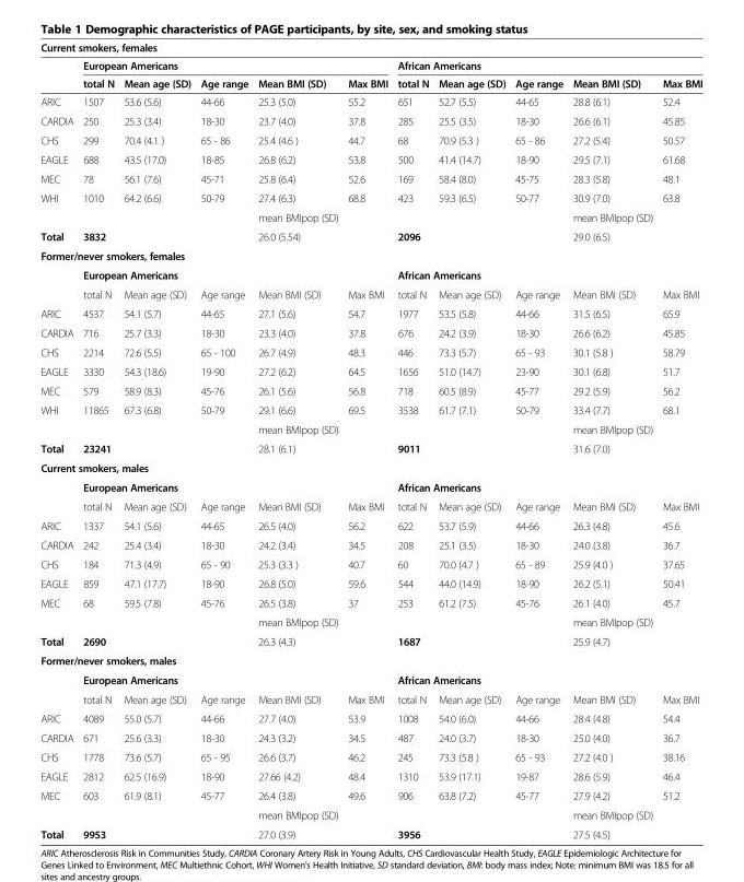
<table><thead><tr><td colspan="11">Current smokers, females</td></tr><tr><td rowspan="2"></td><td colspan="5">European Americans</td><td colspan="5">African Americans</td></tr><tr><td>total N</td><td>Mean age (SD)</td><td>Age range</td><td>Mean BMI (SD)</td><td>Max BMI</td><td>total N</td><td>Mean age (SD)</td><td>Age range</td><td>Mean BMI (SD)</td><td>Max BMI</td></tr></thead><tbody><tr><td>ARIC</td><td>1507</td><td>53.6 (5.6)</td><td>44-66</td><td>25.3 (5.0)</td><td>55.2</td><td>651</td><td>52.7 (5.5)</td><td>44-65</td><td>28.8 (6.1)</td><td>52.4</td></tr><tr><td>CARDIA</td><td>250</td><td>25.3 (3.4)</td><td>18-30</td><td>23.7 (4.0)</td><td>37.8</td><td>285</td><td>25.5 (3.5)</td><td>18-30</td><td>26.6 (6.1)</td><td>45.85</td></tr><tr><td>CHS</td><td>299</td><td>70.4 (4.1 )</td><td>65 - 86</td><td>25.4 (4.6 )</td><td>44.7</td><td>68</td><td>70.9 (5.3 )</td><td>65 - 86</td><td>27.2 (5.4)</td><td>50.57</td></tr><tr><td>EAGLE</td><td>688</td><td>43.5 (17.0)</td><td>18-85</td><td>26.8 (6.2)</td><td>53.8</td><td>500</td><td>41.4 (14.7)</td><td>18-90</td><td>29.5 (7.1)</td><td>61.68</td></tr><tr><td>MEC</td><td>78</td><td>56.1 (7.6)</td><td>45-71</td><td>25.8 (6.4)</td><td>52.6</td><td>169</td><td>58.4 (8.0)</td><td>45-75</td><td>28.3 (5.8)</td><td>48.1</td></tr><tr><td rowspan="2">WHI</td><td>1010</td><td>64.2 (6.6)</td><td>50-79</td><td>27.4 (6.3)</td><td>68.8</td><td>423</td><td>59.3 (6.5)</td><td>50-77</td><td>30.9 (7.0)</td><td>63.8</td></tr><tr><td></td><td></td><td></td><td>mean BMIpop (SD)</td><td></td><td></td><td></td><td></td><td>mean BMIpop (SD)</td><td></td></tr><tr><td>Total</td><td>3832</td><td></td><td></td><td>26.0 (5.54)</td><td></td><td>2096</td><td></td><td></td><td>29.0 (6.5)</td><td></td></tr><tr><td colspan="11">Former/never smokers, females</td></tr><tr><td></td><td colspan="5">European Americans</td><td colspan="5">African Americans</td></tr><tr><td></td><td>total N</td><td>Mean age (SD)</td><td>Age range</td><td>Mean BMI (SD)</td><td>Max BMI</td><td>total N</td><td>Mean age (SD)</td><td>Age range</td><td>Mean BMI (SD)</td><td>Max BMI</td></tr><tr><td>ARIC</td><td>4537</td><td>54.1 (5.7)</td><td>44-65</td><td>27.1 (5.6)</td><td>54.7</td><td>1977</td><td>53.5 (5.8)</td><td>44-66</td><td>31.5 (6.5)</td><td>65.9</td></tr><tr><td>CARDIA</td><td>716</td><td>25.7 (3.3)</td><td>18-30</td><td>23.3 (4.0)</td><td>37.8</td><td>676</td><td>24.2 (3.9)</td><td>18-30</td><td>26.6 (6.2)</td><td>45.85</td></tr><tr><td>CHS</td><td>2214</td><td>72.6 (5.5)</td><td>65 - 100</td><td>26.7 (4.9)</td><td>48.3</td><td>446</td><td>73.3 (5.7)</td><td>65 - 93</td><td>30.1 (5.8 )</td><td>58.79</td></tr><tr><td>EAGLE</td><td>3330</td><td>54.3 (18.6)</td><td>19-90</td><td>27.2 (6.2)</td><td>64.5</td><td>1656</td><td>51.0 (14.7)</td><td>23-90</td><td>30.1 (6.8)</td><td>51.7</td></tr><tr><td>MEC</td><td>579</td><td>58.9 (8.3)</td><td>45-76</td><td>26.1 (5.6)</td><td>56.8</td><td>718</td><td>60.5 (8.9)</td><td>45-77</td><td>29.2 (5.9)</td><td>56.2</td></tr><tr><td rowspan="2">WHI</td><td>11865</td><td>67.3 (6.8)</td><td>50-79</td><td>29.1 (6.6)</td><td>69.5</td><td>3538</td><td>61.7 (7.1)</td><td>50-79</td><td>33.4 (7.7)</td><td>68.1</td></tr><tr><td></td><td></td><td></td><td>mean BMIpop (SD)</td><td></td><td></td><td></td><td></td><td>mean BMIpop (SD)</td><td></td></tr><tr><td>Total</td><td>23241</td><td></td><td></td><td>28.1 (6.1)</td><td></td><td>9011</td><td></td><td></td><td>31.6 (7.0)</td><td></td></tr><tr><td colspan="11">Current smokers, males</td></tr><tr><td></td><td colspan="5">European Americans</td><td colspan="5">African Americans</td></tr><tr><td></td><td>total N</td><td>Mean age (SD)</td><td>Age range</td><td>Mean BMI (SD)</td><td>Max BMI</td><td>total N</td><td>Mean age (SD)</td><td>Age range</td><td>Mean BMI (SD)</td><td>Max BMI</td></tr><tr><td>ARIC</td><td>1337</td><td>54.1 (5.6)</td><td>44-65</td><td>26.5 (4.0)</td><td>56.2</td><td>622</td><td>53.7 (5.9)</td><td>44-66</td><td>26.3 (4.8)</td><td>45.6</td></tr><tr><td>CARDIA</td><td>242</td><td>25.4 (3.4)</td><td>18-30</td><td>24.2 (3.4)</td><td>34.5</td><td>208</td><td>25.1 (3.5)</td><td>18-30</td><td>24.0 (3.8)</td><td>36.7</td></tr><tr><td>CHS</td><td>184</td><td>71.3 (4.9)</td><td>65 - 90</td><td>25.3 (3.3 )</td><td>40.7</td><td>60</td><td>70.0 (4.7 )</td><td>65 - 89</td><td>25.9 (4.0 )</td><td>37.65</td></tr><tr><td>EAGLE</td><td>859</td><td>47.1 (17.7)</td><td>18-90</td><td>26.8 (5.0)</td><td>59.6</td><td>544</td><td>44.0 (14.9)</td><td>18-90</td><td>26.2 (5.1)</td><td>50.41</td></tr><tr><td rowspan="2">MEC</td><td>68</td><td>59.5 (7.8)</td><td>45-76</td><td>26.5 (3.8)</td><td>37</td><td>253</td><td>61.2 (7.5)</td><td>45-76</td><td>26.1 (4.0)</td><td>45.7</td></tr><tr><td></td><td></td><td></td><td>mean BMIpop (SD)</td><td></td><td></td><td></td><td></td><td>mean BMIpop (SD)</td><td></td></tr><tr><td>Total</td><td>2690</td><td></td><td></td><td>26.3 (4.3)</td><td></td><td>1687</td><td></td><td></td><td>25.9 (4.7)</td><td></td></tr><tr><td colspan="11">Former/never smokers, males</td></tr><tr><td></td><td colspan="5">European Americans</td><td colspan="5">African Americans</td></tr><tr><td></td><td>total N</td><td>Mean age (SD)</td><td>Age range</td><td>Mean BMI (SD)</td><td>Max BMI</td><td>total N</td><td>Mean age (SD)</td><td>Age range</td><td>Mean BMI (SD)</td><td>Max BMI</td></tr><tr><td>ARIC</td><td>4089</td><td>55.0 (5.7)</td><td>44-66</td><td>27.7 (4.0)</td><td>53.9</td><td>1008</td><td>54.0 (6.0)</td><td>44-66</td><td>28.4 (4.8)</td><td>54.4</td></tr><tr><td>CARDIA</td><td>671</td><td>25.6 (3.3)</td><td>18-30</td><td>24.3 (3.2)</td><td>34.5</td><td>487</td><td>24.0 (3.7)</td><td>18-30</td><td>25.0 (4.0)</td><td>36.7</td></tr><tr><td>CHS</td><td>1778</td><td>73.6 (5.7)</td><td>65 - 95</td><td>26.6 (3.7)</td><td>46.2</td><td>245</td><td>73.3 (5.8 )</td><td>65 - 93</td><td>27.2 (4.0 )</td><td>38.16</td></tr><tr><td>EAGLE</td><td>2812</td><td>62.5 (16.9)</td><td>18-90</td><td>27.66 (4.2)</td><td>48.4</td><td>1310</td><td>53.9 (17.1)</td><td>19-87</td><td>28.6 (5.9)</td><td>46.4</td></tr><tr><td rowspan="2">MEC</td><td>603</td><td>61.9 (8.1)</td><td>45-77</td><td>26.4 (3.8)</td><td>49.6</td><td>906</td><td>63.8 (7.2)</td><td>45-77</td><td>27.9 (4.2)</td><td>51.2</td></tr><tr><td></td><td></td><td></td><td>mean BMIpop (SD)</td><td></td><td></td><td></td><td></td><td>mean BMIpop (SD)</td><td></td></tr><tr><td>Total</td><td>9953</td><td></td><td></td><td>27.0 (3.9)</td><td></td><td>3956</td><td></td><td></td><td>27.5 (4.5)</td><td></td></tr></tbody></table>